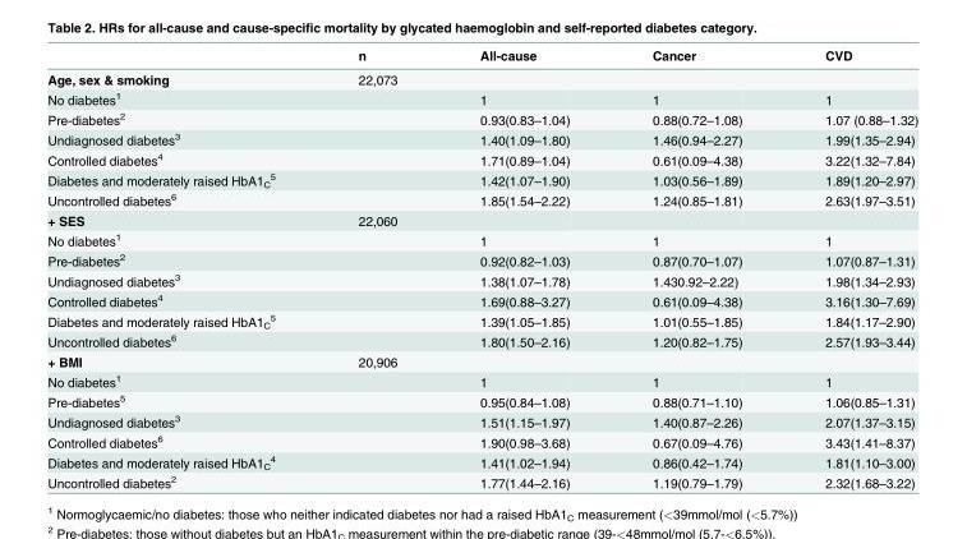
<table><thead><tr><td></td><td>n</td><td>All-cause</td><td>Cancer</td><td>CVD</td></tr></thead><tbody><tr><td>Age, sex &amp; smoking</td><td>22,073</td><td></td><td></td><td></td></tr><tr><td>No diabetes<sup>1</sup></td><td></td><td>1</td><td>1</td><td>1</td></tr><tr><td>Pre-diabetes<sup>2</sup></td><td></td><td>0.93(0.83–1.04)</td><td>0.88(0.72–1.08)</td><td>1.07 (0.88–1.32)</td></tr><tr><td>Undiagnosed diabetes<sup>3</sup></td><td></td><td>1.40(1.09–1.80)</td><td>1.46(0.94–2.27)</td><td>1.99(1.35–2.94)</td></tr><tr><td>Controlled diabetes<sup>4</sup></td><td></td><td>1.71(0.89–1.04)</td><td>0.61(0.09–4.38)</td><td>3.22(1.32–7.84)</td></tr><tr><td>Diabetes and moderately raised HbA1<sub>C</sub> <sup>5</sup></td><td></td><td>1.42(1.07–1.90)</td><td>1.03(0.56–1.89)</td><td>1.89(1.20–2.97)</td></tr><tr><td>Uncontrolled diabetes<sup>6</sup></td><td></td><td>1.85(1.54–2.22)</td><td>1.24(0.85–1.81)</td><td>2.63(1.97–3.51)</td></tr><tr><td>+ SES</td><td>22,060</td><td></td><td></td><td></td></tr><tr><td>No diabetes<sup>1</sup></td><td></td><td>1</td><td>1</td><td>1</td></tr><tr><td>Pre-diabetes<sup>2</sup></td><td></td><td>0.92(0.82–1.03)</td><td>0.87(0.70–1.07)</td><td>1.07(0.87–1.31)</td></tr><tr><td>Undiagnosed diabetes<sup>3</sup></td><td></td><td>1.38(1.07–1.78)</td><td>1.430.92–2.22)</td><td>1.98(1.34–2.93)</td></tr><tr><td>Controlled diabetes<sup>4</sup></td><td></td><td>1.69(0.88–3.27)</td><td>0.61(0.09–4.38)</td><td>3.16(1.30–7.69)</td></tr><tr><td>Diabetes and moderately raised HbA1<sub>C</sub> <sup>5</sup></td><td></td><td>1.39(1.05–1.85)</td><td>1.01(0.55–1.85)</td><td>1.84(1.17–2.90)</td></tr><tr><td>Uncontrolled diabetes<sup>6</sup></td><td></td><td>1.80(1.50–2.16)</td><td>1.20(0.82–1.75)</td><td>2.57(1.93–3.44)</td></tr><tr><td>+ BMI</td><td>20,906</td><td></td><td></td><td></td></tr><tr><td>No diabetes<sup>1</sup></td><td></td><td>1</td><td>1</td><td>1</td></tr><tr><td>Pre-diabetes<sup>5</sup></td><td></td><td>0.95(0.84–1.08)</td><td>0.88(0.71–1.10)</td><td>1.06(0.85–1.31)</td></tr><tr><td>Undiagnosed diabetes<sup>3</sup></td><td></td><td>1.51(1.15–1.97)</td><td>1.40(0.87–2.26)</td><td>2.07(1.37–3.15)</td></tr><tr><td>Controlled diabetes<sup>6</sup></td><td></td><td>1.90(0.98–3.68)</td><td>0.67(0.09–4.76)</td><td>3.43(1.41–8.37)</td></tr><tr><td>Diabetes and moderately raised HbA1<sub>C</sub> <sup>4</sup></td><td></td><td>1.41(1.02–1.94)</td><td>0.86(0.42–1.74)</td><td>1.81(1.10–3.00)</td></tr><tr><td>Uncontrolled diabetes<sup>2</sup></td><td></td><td>1.77(1.44–2.16)</td><td>1.19(0.79–1.79)</td><td>2.32(1.68–3.22)</td></tr></tbody></table>